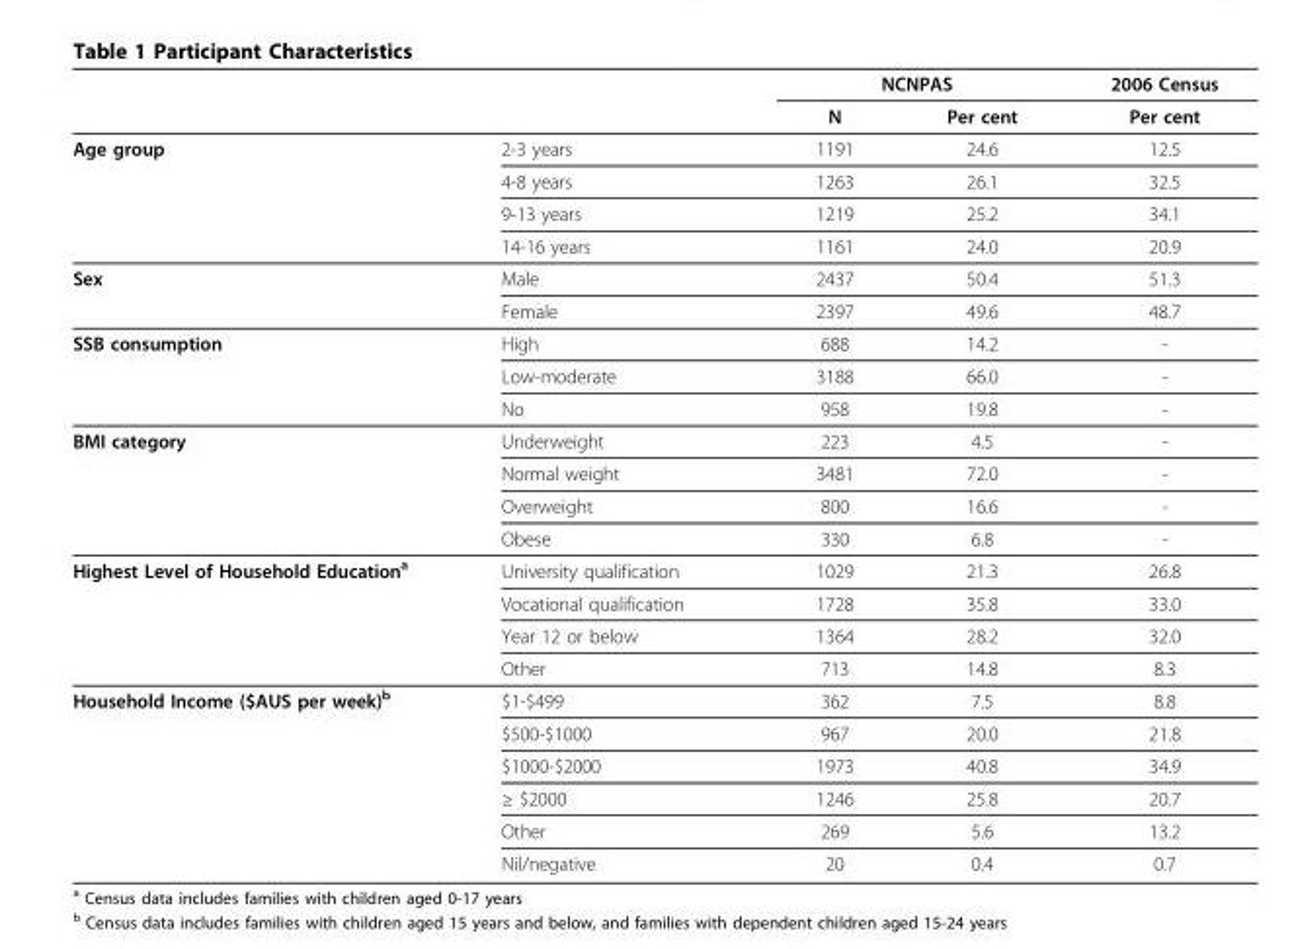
<table><thead><tr><td rowspan="2"></td><td rowspan="2"></td><td colspan="2">NCNPAS</td><td rowspan="2">2006 Census Per cent</td></tr><tr><td>N</td><td>Per cent</td></tr></thead><tbody><tr><td rowspan="4">Age group</td><td>2-3 years</td><td>1191</td><td>24.6</td><td>12.5</td></tr><tr><td>4-8 years</td><td>1263</td><td>26.1</td><td>32.5</td></tr><tr><td>9-13 years</td><td>1219</td><td>25.2</td><td>34.1</td></tr><tr><td>14-16 years</td><td>1161</td><td>24.0</td><td>20.9</td></tr><tr><td rowspan="2">Sex</td><td>Male</td><td>2437</td><td>50.4</td><td>51.3</td></tr><tr><td>Female</td><td>2397</td><td>49.6</td><td>48.7</td></tr><tr><td rowspan="3">SSB consumption</td><td>High</td><td>688</td><td>14.2</td><td>-</td></tr><tr><td>Low-moderate</td><td>3188</td><td>66.0</td><td>-</td></tr><tr><td>No</td><td>958</td><td>19.8</td><td>-</td></tr><tr><td rowspan="4">BMI category</td><td>Underweight</td><td>223</td><td>4.5</td><td>-</td></tr><tr><td>Normal weight</td><td>3481</td><td>72.0</td><td>-</td></tr><tr><td>Overweight</td><td>800</td><td>16.6</td><td>-</td></tr><tr><td>Obese</td><td>330</td><td>6.8</td><td>-</td></tr><tr><td rowspan="4">Highest Level of Household Education<sup>a</sup></td><td>University qualification</td><td>1029</td><td>21.3</td><td>26.8</td></tr><tr><td>Vocational qualification</td><td>1728</td><td>35.8</td><td>33.0</td></tr><tr><td>Year 12 or below</td><td>1364</td><td>28.2</td><td>32.0</td></tr><tr><td>Other</td><td>713</td><td>14.8</td><td>8.3</td></tr><tr><td rowspan="6">Household Income ($AUS per week)<sup>b</sup></td><td>$1-$499</td><td>362</td><td>7.5</td><td>8.8</td></tr><tr><td>$500-$1000</td><td>967</td><td>20.0</td><td>21.8</td></tr><tr><td>$1000-$2000</td><td>1973</td><td>40.8</td><td>34.9</td></tr><tr><td>≥ $2000</td><td>1246</td><td>25.8</td><td>20.7</td></tr><tr><td>Other</td><td>269</td><td>5.6</td><td>13.2</td></tr><tr><td>Nil/negative</td><td>20</td><td>0.4</td><td>0.7</td></tr></tbody></table>